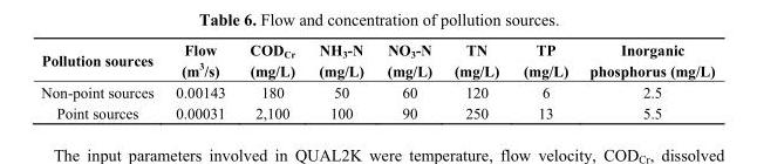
<table><thead><tr><td>Pollution sources</td><td>Flow (m<sup>3</sup>/s)</td><td>COD<sub>Cr</sub> (mg/L)</td><td>NH<sub>3</sub>-N (mg/L)</td><td>NO<sub>3</sub>-N (mg/L)</td><td>TN (mg/L)</td><td>TP (mg/L)</td><td>Inorganic phosphorus (mg/L)</td></tr></thead><tbody><tr><td>Non-point sources</td><td>0.00143</td><td>180</td><td>50</td><td>60</td><td>120</td><td>6</td><td>2.5</td></tr><tr><td>Point sources</td><td>0.00031</td><td>2,100</td><td>100</td><td>90</td><td>250</td><td>13</td><td>5.5</td></tr></tbody></table>